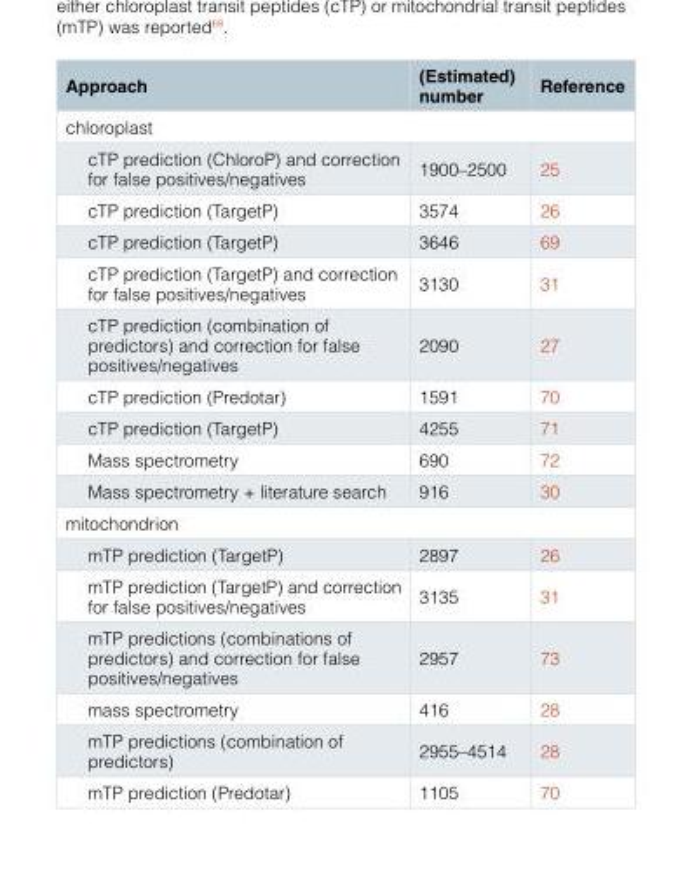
<table><thead><tr><td>Approach</td><td>(Estimated) number</td><td>Reference</td></tr></thead><tbody><tr><td colspan="3">chloroplast</td></tr><tr><td>cTP prediction (ChloroP) and correction for false positives/negatives</td><td>1900–2500</td><td>25</td></tr><tr><td>cTP prediction (TargetP)</td><td>3574</td><td>26</td></tr><tr><td>cTP prediction (TargetP)</td><td>3646</td><td>69</td></tr><tr><td>cTP prediction (TargetP) and correction for false positives/negatives</td><td>3130</td><td>31</td></tr><tr><td>cTP prediction (combination of predictors) and correction for false positives/negatives</td><td>2090</td><td>27</td></tr><tr><td>cTP prediction (Predotar)</td><td>1591</td><td>70</td></tr><tr><td>cTP prediction (TargetP)</td><td>4255</td><td>71</td></tr><tr><td>Mass spectrometry</td><td>690</td><td>72</td></tr><tr><td>Mass spectrometry + literature search</td><td>916</td><td>30</td></tr><tr><td colspan="3">mitochondrion</td></tr><tr><td>mTP prediction (TargetP)</td><td>2897</td><td>26</td></tr><tr><td>mTP prediction (TargetP) and correction for false positives/negatives</td><td>3135</td><td>31</td></tr><tr><td>mTP predictions (combinations of predictors) and correction for false positives/negatives</td><td>2957</td><td>73</td></tr><tr><td>mass spectrometry</td><td>416</td><td>28</td></tr><tr><td>mTP predictions (combination of predictors)</td><td>2955–4514</td><td>28</td></tr><tr><td>mTP prediction (Predotar)</td><td>1105</td><td>70</td></tr></tbody></table>